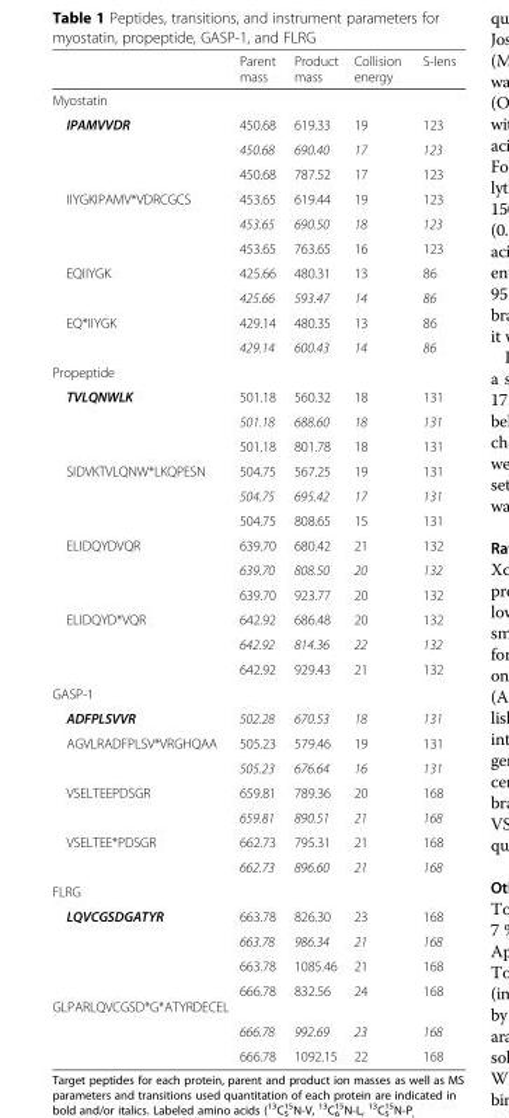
<table><thead><tr><td></td><td>Parent mass</td><td>Product mass</td><td>Collision energy</td><td>S-lens</td></tr></thead><tbody><tr><td colspan="5">Myostatin</td></tr><tr><td rowspan="3">IPAMVVDR</td><td>450.68</td><td>619.33</td><td>19</td><td>123</td></tr><tr><td>450.68</td><td>690.40</td><td>17</td><td>123</td></tr><tr><td>450.68</td><td>787.52</td><td>17</td><td>123</td></tr><tr><td rowspan="3">IIYGKIPAMV*VDRCGCS</td><td>453.65</td><td>619.44</td><td>19</td><td>123</td></tr><tr><td>453.65</td><td>690.50</td><td>18</td><td>123</td></tr><tr><td>453.65</td><td>763.65</td><td>16</td><td>123</td></tr><tr><td rowspan="2">EQIIYGK</td><td>425.66</td><td>480.31</td><td>13</td><td>86</td></tr><tr><td>425.66</td><td>593.47</td><td>14</td><td>86</td></tr><tr><td rowspan="2">EQ*IIYGK</td><td>429.14</td><td>480.35</td><td>13</td><td>86</td></tr><tr><td>429.14</td><td>600.43</td><td>14</td><td>86</td></tr><tr><td colspan="5">Propeptide</td></tr><tr><td rowspan="3">TVLQNWLK</td><td>501.18</td><td>560.32</td><td>18</td><td>131</td></tr><tr><td>501.18</td><td>688.60</td><td>18</td><td>131</td></tr><tr><td>501.18</td><td>801.78</td><td>18</td><td>131</td></tr><tr><td rowspan="3">SIDVKTVLQNW*LKQPESN</td><td>504.75</td><td>567.25</td><td>19</td><td>131</td></tr><tr><td>504.75</td><td>695.42</td><td>17</td><td>131</td></tr><tr><td>504.75</td><td>808.65</td><td>15</td><td>131</td></tr><tr><td rowspan="3">ELIDQYDVQR</td><td>639.70</td><td>680.42</td><td>21</td><td>132</td></tr><tr><td>639.70</td><td>808.50</td><td>20</td><td>132</td></tr><tr><td>639.70</td><td>923.77</td><td>20</td><td>132</td></tr><tr><td rowspan="3">ELIDQYD*VQR</td><td>642.92</td><td>686.48</td><td>20</td><td>132</td></tr><tr><td>642.92</td><td>814.36</td><td>22</td><td>132</td></tr><tr><td>642.92</td><td>929.43</td><td>21</td><td>132</td></tr><tr><td colspan="5">GASP-1</td></tr><tr><td>ADFPLSVVR</td><td>502.28</td><td>670.53</td><td>18</td><td>131</td></tr><tr><td rowspan="2">AGVLRADFPLSV*VRGHQAA</td><td>505.23</td><td>579.46</td><td>19</td><td>131</td></tr><tr><td>505.23</td><td>676.64</td><td>16</td><td>131</td></tr><tr><td rowspan="2">VSELTEEPDSGR</td><td>659.81</td><td>789.36</td><td>20</td><td>168</td></tr><tr><td>659.81</td><td>890.51</td><td>21</td><td>168</td></tr><tr><td rowspan="2">VSELTEE*PDSGR</td><td>662.73</td><td>795.31</td><td>21</td><td>168</td></tr><tr><td>662.73</td><td>896.60</td><td>21</td><td>168</td></tr><tr><td colspan="5">FLRG</td></tr><tr><td rowspan="3">LQVCGSDGATYR</td><td>663.78</td><td>826.30</td><td>23</td><td>168</td></tr><tr><td>663.78</td><td>986.34</td><td>21</td><td>168</td></tr><tr><td>663.78</td><td>1085.46</td><td>21</td><td>168</td></tr><tr><td rowspan="3">GLPARLQVCGSD*G*ATYRDECEL</td><td>666.78</td><td>832.56</td><td>24</td><td>168</td></tr><tr><td>666.78</td><td>992.69</td><td>23</td><td>168</td></tr><tr><td>666.78</td><td>1092.15</td><td>22</td><td>168</td></tr></tbody></table>